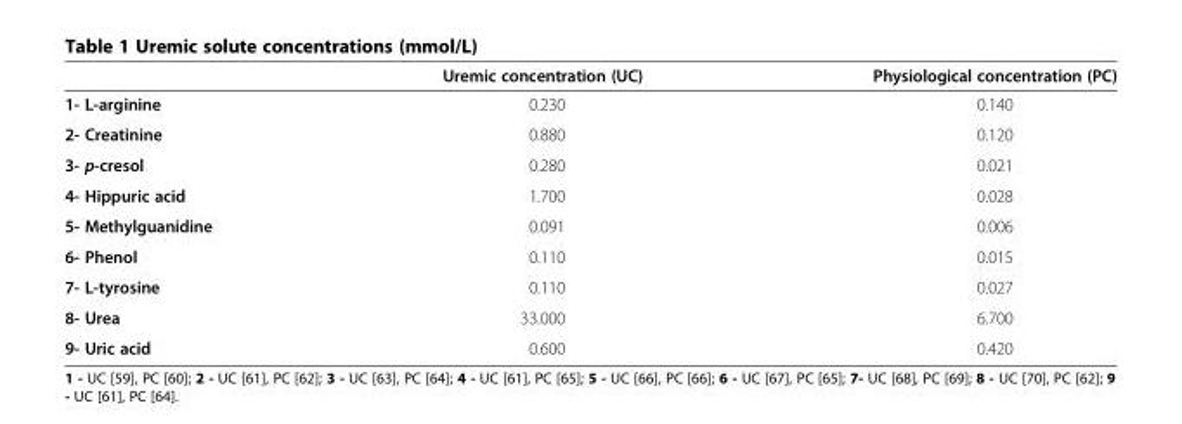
<table><thead><tr><td></td><td>Uremic concentration (UC)</td><td>Physiological concentration (PC)</td></tr></thead><tbody><tr><td>1- L-arginine</td><td>0.230</td><td>0.140</td></tr><tr><td>2- Creatinine</td><td>0.880</td><td>0.120</td></tr><tr><td>3- p-cresol</td><td>0.280</td><td>0.021</td></tr><tr><td>4- Hippuric acid</td><td>1.700</td><td>0.028</td></tr><tr><td>5- Methylguanidine</td><td>0.091</td><td>0.006</td></tr><tr><td>6- Phenol</td><td>0.110</td><td>0.015</td></tr><tr><td>7- L-tyrosine</td><td>0.110</td><td>0.027</td></tr><tr><td>8- Urea</td><td>33.000</td><td>6.700</td></tr><tr><td>9- Uric acid</td><td>0.600</td><td>0.420</td></tr></tbody></table>